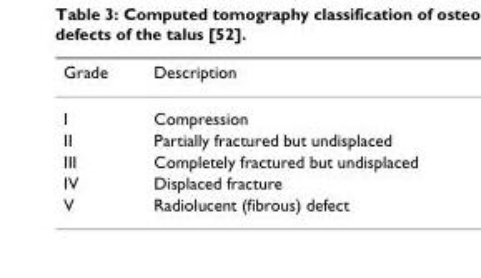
<table><thead><tr><td>Grade</td><td>Description</td></tr></thead><tbody><tr><td>I</td><td>Compression</td></tr><tr><td>II</td><td>Partially fractured but undisplaced</td></tr><tr><td>III</td><td>Completely fractured but undisplaced</td></tr><tr><td>IV</td><td>Displaced fracture</td></tr><tr><td>V</td><td>Radiolucent (fibrous) defect</td></tr></tbody></table>